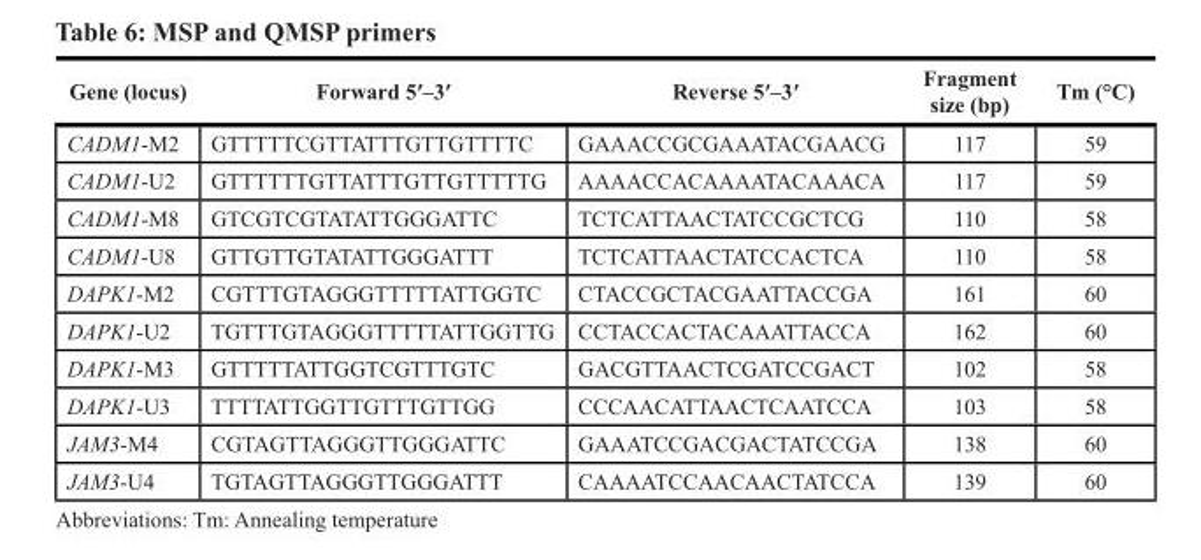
<table><thead><tr><td>Gene (locus)</td><td>Forward 5′–3′</td><td>Reverse 5′–3′</td><td>Fragment size (bp)</td><td>Tm (°C)</td></tr></thead><tbody><tr><td>CADM1-M2</td><td>GTTTTTCGTTATTTGTTGTTTTC</td><td>GAAACCGCGAAATACGAACG</td><td>117</td><td>59</td></tr><tr><td>CADM1-U2</td><td>GTTTTTTGTTATTTGTTGTTTTTG</td><td>AAAACCACAAAATACAAACA</td><td>117</td><td>59</td></tr><tr><td>CADM1-M8</td><td>GTCGTCGTATATTGGGATTC</td><td>TCTCATTAACTATCCGCTCG</td><td>110</td><td>58</td></tr><tr><td>CADM1-U8</td><td>GTTGTTGTATATTGGGATTT</td><td>TCTCATTAACTATCCACTCA</td><td>110</td><td>58</td></tr><tr><td>DAPK1-M2</td><td>CGTTTGTAGGGTTTTTATTGGTC</td><td>CTACCGCTACGAATTACCGA</td><td>161</td><td>60</td></tr><tr><td>DAPK1-U2</td><td>TGTTTGTAGGGTTTTTATTGGTTG</td><td>CCTACCACTACAAATTACCA</td><td>162</td><td>60</td></tr><tr><td>DAPK1-M3</td><td>GTTTTTATTGGTCGTTTGTC</td><td>GACGTTAACTCGATCCGACT</td><td>102</td><td>58</td></tr><tr><td>DAPK1-U3</td><td>TTTTATTGGTTGTTTGTTGG</td><td>CCCAACATTAACTCAATCCA</td><td>103</td><td>58</td></tr><tr><td>JAM3-M4</td><td>CGTAGTTAGGGTTGGGATTC</td><td>GAAATCCGACGACTATCCGA</td><td>138</td><td>60</td></tr><tr><td>JAM3-U4</td><td>TGTAGTTAGGGTTGGGATTT</td><td>CAAAATCCAACAACTATCCA</td><td>139</td><td>60</td></tr></tbody></table>